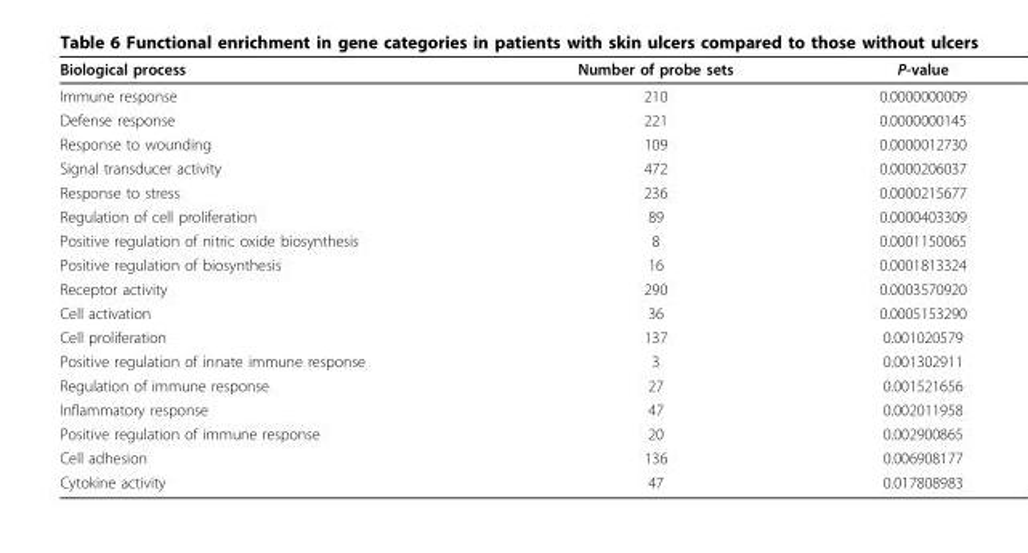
<table><thead><tr><td>Biological process</td><td>Number of probe sets</td><td>P-value</td></tr></thead><tbody><tr><td>Immune response</td><td>210</td><td>0.0000000009</td></tr><tr><td>Defense response</td><td>221</td><td>0.0000000145</td></tr><tr><td>Response to wounding</td><td>109</td><td>0.0000012730</td></tr><tr><td>Signal transducer activity</td><td>472</td><td>0.0000206037</td></tr><tr><td>Response to stress</td><td>236</td><td>0.0000215677</td></tr><tr><td>Regulation of cell proliferation</td><td>89</td><td>0.0000403309</td></tr><tr><td>Positive regulation of nitric oxide biosynthesis</td><td>8</td><td>0.0001150065</td></tr><tr><td>Positive regulation of biosynthesis</td><td>16</td><td>0.0001813324</td></tr><tr><td>Receptor activity</td><td>290</td><td>0.0003570920</td></tr><tr><td>Cell activation</td><td>36</td><td>0.0005153290</td></tr><tr><td>Cell proliferation</td><td>137</td><td>0.001020579</td></tr><tr><td>Positive regulation of innate immune response</td><td>3</td><td>0.001302911</td></tr><tr><td>Regulation of immune response</td><td>27</td><td>0.001521656</td></tr><tr><td>Inflammatory response</td><td>47</td><td>0.002011958</td></tr><tr><td>Positive regulation of immune response</td><td>20</td><td>0.002900865</td></tr><tr><td>Cell adhesion</td><td>136</td><td>0.006908177</td></tr><tr><td>Cytokine activity</td><td>47</td><td>0.017808983</td></tr></tbody></table>